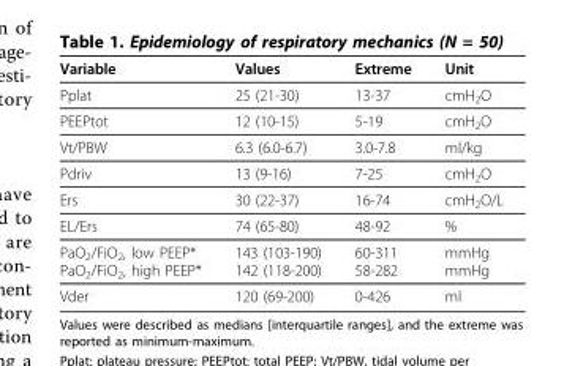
<table><thead><tr><td>Variable</td><td>Values</td><td>Extreme</td><td>Unit</td></tr></thead><tbody><tr><td>Pplat</td><td>25 (21-30)</td><td>13-37</td><td>cmH<sub>2</sub>O</td></tr><tr><td>PEEPtot</td><td>12 (10-15)</td><td>5-19</td><td>cmH<sub>2</sub>O</td></tr><tr><td>Vt/PBW</td><td>6.3 (6.0-6.7)</td><td>3.0-7.8</td><td>ml/kg</td></tr><tr><td>Pdriv</td><td>13 (9-16)</td><td>7-25</td><td>cmH<sub>2</sub>O</td></tr><tr><td>Ers</td><td>30 (22-37)</td><td>16-74</td><td>cmH<sub>2</sub>O/L</td></tr><tr><td>EL/Ers</td><td>74 (65-80)</td><td>48-92</td><td>%</td></tr><tr><td>PaO<sub>2</sub>/FiO<sub>2</sub>, low PEEP* PaO<sub>2</sub>/FiO<sub>2</sub>, high PEEP*</td><td>143 (103-190) 142 (118-200)</td><td>60-311 58-282</td><td>mmHg mmHg</td></tr><tr><td>Vder</td><td>120 (69-200)</td><td>0-426</td><td>ml</td></tr></tbody></table>